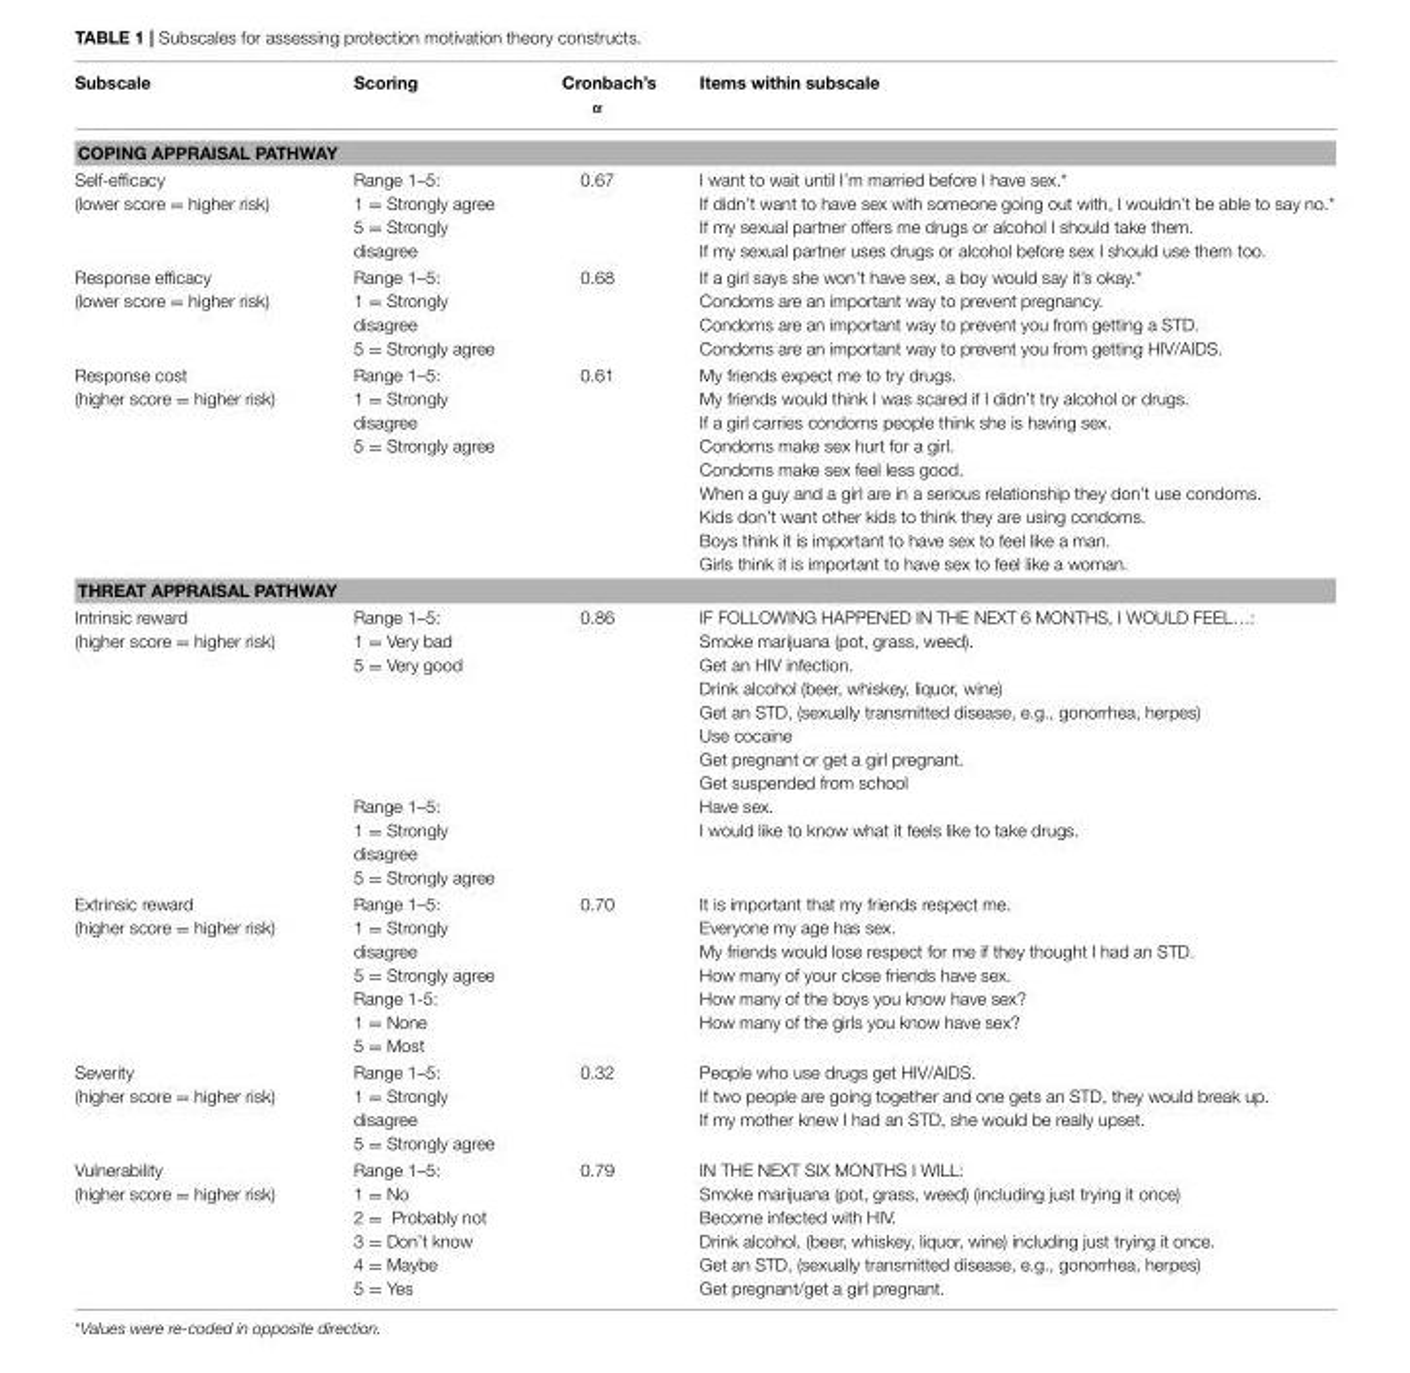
<table><thead><tr><td>Subscale</td><td>Scoring</td><td>Cronbach’s α</td><td>Items within subscale</td></tr></thead><tbody><tr><td colspan="4">COPING APPRAISAL PATHWAY</td></tr><tr><td>Self-efficacy (lower score = higher risk)</td><td>Range 1–5: 1 = Strongly agree 5 = Strongly disagree</td><td>0.67</td><td>I want to wait until I’m married before I have sex.* If didn’t want to have sex with someone going out with, I wouldn’t be able to say no.* If my sexual partner offers me drugs or alcohol I should take them. If my sexual partner uses drugs or alcohol before sex I should use them too.</td></tr><tr><td>Response efficacy (lower score = higher risk)</td><td>Range 1–5: 1 = Strongly disagree 5 = Strongly agree</td><td>0.68</td><td>If a girl says she won’t have sex, a boy would say it’s okay.* Condoms are an important way to prevent pregnancy. Condoms are an important way to prevent you from getting a STD. Condoms are an important way to prevent you from getting HIV/AIDS.</td></tr><tr><td>Response cost (higher score = higher risk)</td><td>Range 1–5: 1 = Strongly disagree 5 = Strongly agree</td><td>0.61</td><td>My friends expect me to try drugs. My friends would think I was scared if I didn’t try alcohol or drugs. If a girl carries condoms people think she is having sex. Condoms make sex hurt for a girl. Condoms make sex feel less good. When a guy and a girl are in a serious relationship they don’t use condoms. Kids don’t want other kids to think they are using condoms. Boys think it is important to have sex to feel like a man. Girls think it is important to have sex to feel like a woman.</td></tr><tr><td colspan="4">THREAT APPRAISAL PATHWAY</td></tr><tr><td>Intrinsic reward (higher score = higher risk)</td><td>Range 1–5: 1 = Very bad 5 = Very good Range 1–5: 1 = Strongly disagree 5 = Strongly agree</td><td>0.86</td><td>IF FOLLOWING HAPPENED IN THE NEXT 6 MONTHS, I WOULD FEEL…: Smoke marijuana (pot, grass, weed). Get an HIV infection. Drink alcohol (beer, whiskey, liquor, wine) Get an STD, (sexually transmitted disease, e.g., gonorrhea, herpes) Use cocaine Get pregnant or get a girl pregnant. Get suspended from school Have sex. I would like to know what it feels like to take drugs.</td></tr><tr><td>Extrinsic reward (higher score = higher risk)</td><td>Range 1–5: 1 = Strongly disagree 5 = Strongly agree Range 1-5: 1 = None 5 = Most</td><td>0.70</td><td>It is important that my friends respect me. Everyone my age has sex. My friends would lose respect for me if they thought I had an STD. How many of your close friends have sex. How many of the boys you know have sex? How many of the girls you know have sex?</td></tr><tr><td>Severity (higher score = higher risk)</td><td>Range 1–5: 1 = Strongly disagree 5 = Strongly agree</td><td>0.32</td><td>People who use drugs get HIV/AIDS. If two people are going together and one gets an STD, they would break up. If my mother knew I had an STD, she would be really upset.</td></tr><tr><td>Vulnerability (higher score = higher risk)</td><td>Range 1–5: 1 = No 2 = Probably not 3 = Don’t know 4 = Maybe 5 = Yes</td><td>0.79</td><td>IN THE NEXT SIX MONTHS I WILL: Smoke marijuana (pot, grass, weed) (including just trying it once) Become infected with HIV. Drink alcohol, (beer, whiskey, liquor, wine) including just trying it once. Get an STD, (sexually transmitted disease, e.g., gonorrhea, herpes) Get pregnant/get a girl pregnant.</td></tr></tbody></table>